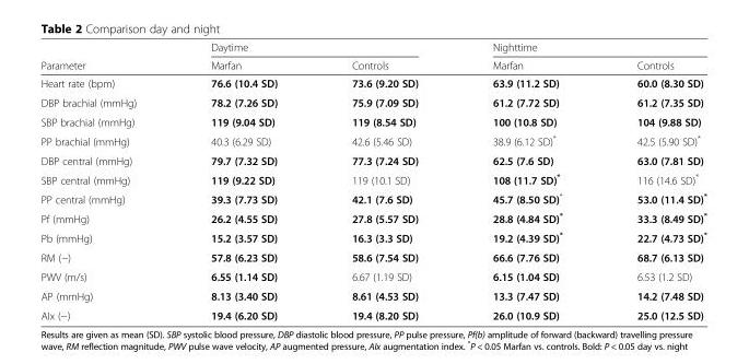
<table><thead><tr><td rowspan="2">Parameter</td><td colspan="2">Daytime</td><td colspan="2">Nighttime</td></tr><tr><td>Marfan</td><td>Controls</td><td>Marfan</td><td>Controls</td></tr></thead><tbody><tr><td>Heart rate (bpm)</td><td>76.6 (10.4 SD)</td><td>73.6 (9.20 SD)</td><td>63.9 (11.2 SD)</td><td>60.0 (8.30 SD)</td></tr><tr><td>DBP brachial (mmHg)</td><td>78.2 (7.26 SD)</td><td>75.9 (7.09 SD)</td><td>61.2 (7.72 SD)</td><td>61.2 (7.35 SD)</td></tr><tr><td>SBP brachial (mmHg)</td><td>119 (9.04 SD)</td><td>119 (8.54 SD)</td><td>100 (10.8 SD)</td><td>104 (9.88 SD)</td></tr><tr><td>PP brachial (mmHg)</td><td>40.3 (6.29 SD)</td><td>42.6 (5.46 SD)</td><td>38.9 (6.12 SD)*</td><td>42.5 (5.90 SD)*</td></tr><tr><td>DBP central (mmHg)</td><td>79.7 (7.32 SD)</td><td>77.3 (7.24 SD)</td><td>62.5 (7.6 SD)</td><td>63.0 (7.81 SD)</td></tr><tr><td>SBP central (mmHg)</td><td>119 (9.22 SD)</td><td>119 (10.1 SD)</td><td>108 (11.7 SD)*</td><td>116 (14.6 SD)*</td></tr><tr><td>PP central (mmHg)</td><td>39.3 (7.73 SD)</td><td>42.1 (7.6 SD)</td><td>45.7 (8.50 SD)*</td><td>53.0 (11.4 SD)*</td></tr><tr><td>Pf (mmHg)</td><td>26.2 (4.55 SD)</td><td>27.8 (5.57 SD)</td><td>28.8 (4.84 SD)*</td><td>33.3 (8.49 SD)*</td></tr><tr><td>Pb (mmHg)</td><td>15.2 (3.57 SD)</td><td>16.3 (3.3 SD)</td><td>19.2 (4.39 SD)*</td><td>22.7 (4.73 SD)*</td></tr><tr><td>RM (−)</td><td>57.8 (6.23 SD)</td><td>58.6 (7.54 SD)</td><td>66.6 (7.76 SD)</td><td>68.7 (6.13 SD)</td></tr><tr><td>PWV (m/s)</td><td>6.55 (1.14 SD)</td><td>6.67 (1.19 SD)</td><td>6.15 (1.04 SD)</td><td>6.53 (1.2 SD)</td></tr><tr><td>AP (mmHg)</td><td>8.13 (3.40 SD)</td><td>8.61 (4.53 SD)</td><td>13.3 (7.47 SD)</td><td>14.2 (7.48 SD)</td></tr><tr><td>AIx (−)</td><td>19.4 (6.20 SD)</td><td>19.4 (8.20 SD)</td><td>26.0 (10.9 SD)</td><td>25.0 (12.5 SD)</td></tr></tbody></table>